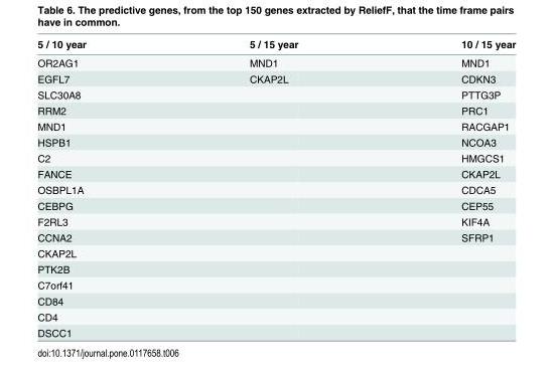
<table><thead><tr><td>5 / 10 year</td><td>5 / 15 year</td><td>10 / 15 year</td></tr></thead><tbody><tr><td>OR2AG1</td><td>MND1</td><td>MND1</td></tr><tr><td>EGFL7</td><td>CKAP2L</td><td>CDKN3</td></tr><tr><td>SLC30A8</td><td></td><td>PTTG3P</td></tr><tr><td>RRM2</td><td></td><td>PRC1</td></tr><tr><td>MND1</td><td></td><td>RACGAP1</td></tr><tr><td>HSPB1</td><td></td><td>NCOA3</td></tr><tr><td>C2</td><td></td><td>HMGCS1</td></tr><tr><td>FANCE</td><td></td><td>CKAP2L</td></tr><tr><td>OSBPL1A</td><td></td><td>CDCA5</td></tr><tr><td>CEBPG</td><td></td><td>CEP55</td></tr><tr><td>F2RL3</td><td></td><td>KIF4A</td></tr><tr><td>CCNA2</td><td></td><td>SFRP1</td></tr><tr><td colspan="3">CKAP2L</td></tr><tr><td colspan="3">PTK2B</td></tr><tr><td colspan="3">C7orf41</td></tr><tr><td colspan="3">CD84</td></tr><tr><td colspan="3">CD4</td></tr><tr><td>DSCC1</td><td></td><td></td></tr></tbody></table>